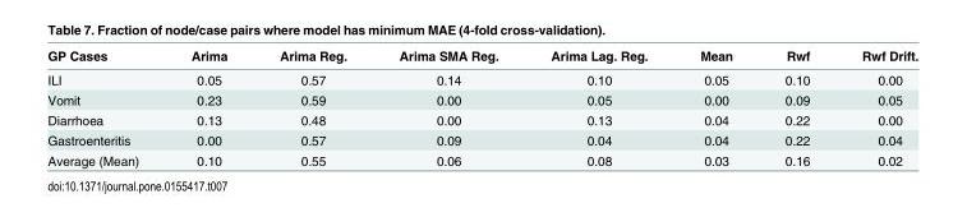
<table><thead><tr><td>GP Cases</td><td>Arima</td><td>Arima Reg.</td><td>Arima SMA Reg.</td><td>Arima Lag. Reg.</td><td>Mean</td><td>Rwf</td><td>Rwf Drift.</td></tr></thead><tbody><tr><td>ILI</td><td>0.05</td><td>0.57</td><td>0.14</td><td>0.10</td><td>0.05</td><td>0.10</td><td>0.00</td></tr><tr><td>Vomit</td><td>0.23</td><td>0.59</td><td>0.00</td><td>0.05</td><td>0.00</td><td>0.09</td><td>0.05</td></tr><tr><td>Diarrhoea</td><td>0.13</td><td>0.48</td><td>0.00</td><td>0.13</td><td>0.04</td><td>0.22</td><td>0.00</td></tr><tr><td>Gastroenteritis</td><td>0.00</td><td>0.57</td><td>0.09</td><td>0.04</td><td>0.04</td><td>0.22</td><td>0.04</td></tr><tr><td>Average (Mean)</td><td>0.10</td><td>0.55</td><td>0.06</td><td>0.08</td><td>0.03</td><td>0.16</td><td>0.02</td></tr></tbody></table>